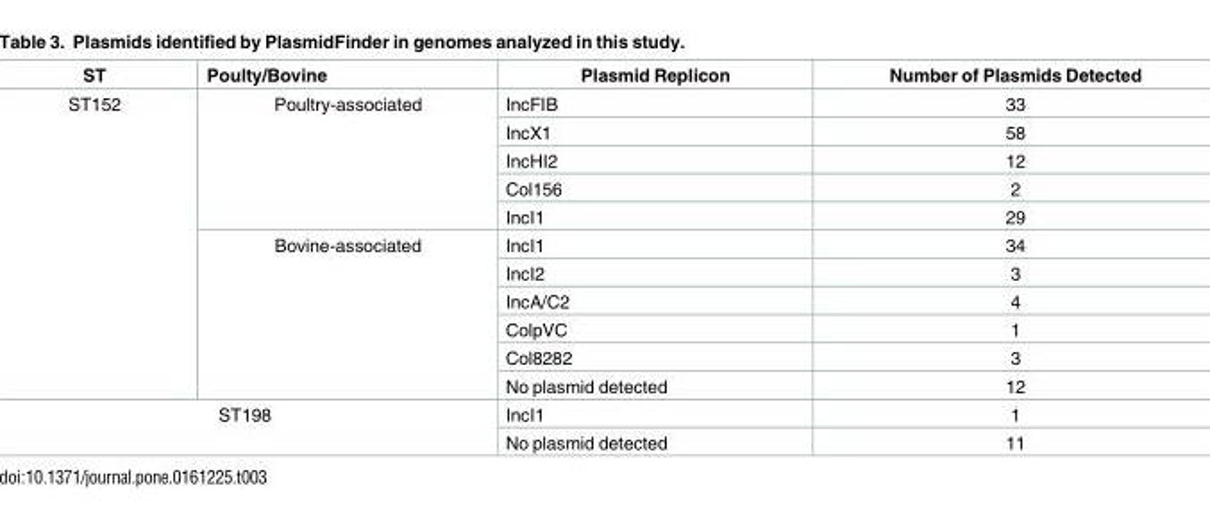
<table><thead><tr><td>ST</td><td>Poulty/Bovine</td><td>Plasmid Replicon</td><td>Number of Plasmids Detected</td></tr></thead><tbody><tr><td rowspan="11">ST152</td><td rowspan="5">Poultry-associated</td><td>IncFIB</td><td>33</td></tr><tr><td>IncX1</td><td>58</td></tr><tr><td>IncHI2</td><td>12</td></tr><tr><td>Col156</td><td>2</td></tr><tr><td>IncI1</td><td>29</td></tr><tr><td rowspan="6">Bovine-associated</td><td>IncI1</td><td>34</td></tr><tr><td>IncI2</td><td>3</td></tr><tr><td>IncA/C2</td><td>4</td></tr><tr><td>ColpVC</td><td>1</td></tr><tr><td>Col8282</td><td>3</td></tr><tr><td>No plasmid detected</td><td>12</td></tr><tr><td rowspan="2" colspan="2">ST198</td><td>IncI1</td><td>1</td></tr><tr><td>No plasmid detected</td><td>11</td></tr></tbody></table>